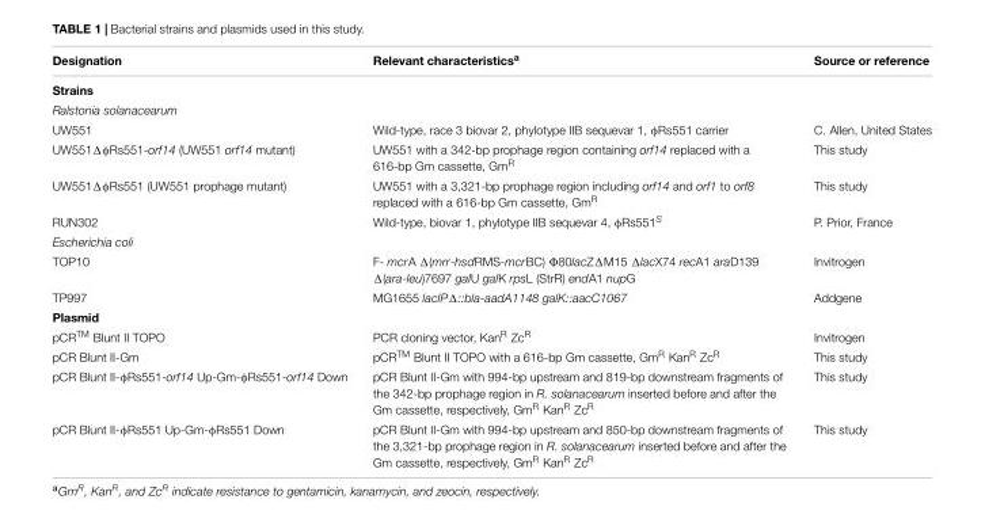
<table><thead><tr><td>Designation</td><td>Relevant characteristics<sup>a</sup></td><td>Source or reference</td></tr></thead><tbody><tr><td colspan="3">Strains</td></tr><tr><td colspan="3">Ralstonia solanacearum</td></tr><tr><td>UW551</td><td>Wild-type, race 3 biovar 2, phylotype IIB sequevar 1, φRs551 carrier</td><td>C. Allen, United States</td></tr><tr><td>UW551ΔφRs551-orf14 (UW551 orf14 mutant)</td><td>UW551 with a 342-bp prophage region containing orf14 replaced with a 616-bp Gm cassette, Gm<sup>R</sup></td><td>This study</td></tr><tr><td>UW551ΔφRs551 (UW551 prophage mutant)</td><td>UW551 with a 3,321-bp prophage region including orf14 and orf1 to orf8 replaced with a 616-bp Gm cassette, Gm<sup>R</sup></td><td>This study</td></tr><tr><td>RUN302</td><td>Wild-type, biovar 1, phylotype IIB sequevar 4, φRs551<sup>S</sup></td><td>P. Prior, France</td></tr><tr><td colspan="3">Escherichia coli</td></tr><tr><td>TOP10</td><td>F- mcrA Δ(mrr-hsdRMS-mcrBC) Φ80lacZΔM15 ΔlacX74 recA1 araD139 Δ(ara-leu)7697 galU galK rpsL (StrR) endA1 nupG</td><td>Invitrogen</td></tr><tr><td>TP997</td><td>MG1655 lacIPΔ::bla-aadA1148 galK::aacC1067</td><td>Addgene</td></tr><tr><td colspan="3">Plasmid</td></tr><tr><td>pCR<sup>TM</sup> Blunt II TOPO</td><td>PCR cloning vector, Kan<sup>R</sup> Zc<sup>R</sup></td><td>Invitrogen</td></tr><tr><td>pCR Blunt II-Gm</td><td>pCR<sup>TM</sup> Blunt II TOPO with a 616-bp Gm cassette, Gm<sup>R</sup> Kan<sup>R</sup> Zc<sup>R</sup></td><td>This study</td></tr><tr><td>pCR Blunt II-φRs551-orf14 Up-Gm-φRs551-orf14 Down</td><td>pCR Blunt II-Gm with 994-bp upstream and 819-bp downstream fragments of the 342-bp prophage region in R. solanacearum inserted before and after the Gm cassette, respectively, Gm<sup>R</sup> Kan<sup>R</sup> Zc<sup>R</sup></td><td>This study</td></tr><tr><td>pCR Blunt II-φRs551 Up-Gm-φRs551 Down</td><td>pCR Blunt II-Gm with 994-bp upstream and 850-bp downstream fragments of the 3,321-bp prophage region in R. solanacearum inserted before and after the Gm cassette, respectively, Gm<sup>R</sup> Kan<sup>R</sup> Zc<sup>R</sup></td><td>This study</td></tr></tbody></table>